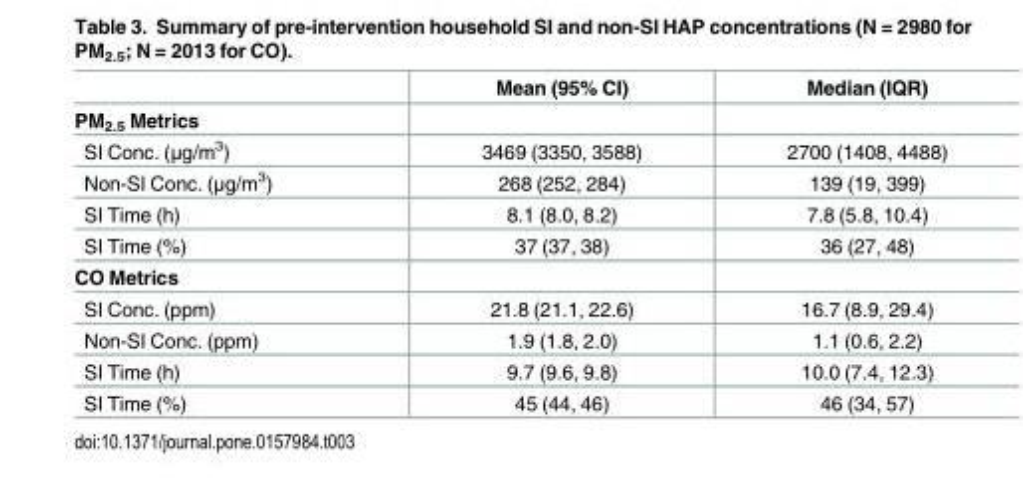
<table><thead><tr><td></td><td>Mean (95% CI)</td><td>Median (IQR)</td></tr></thead><tbody><tr><td colspan="3">PM<sub>2.5</sub> Metrics</td></tr><tr><td>SI Conc. (μg/m<sup>3</sup>)</td><td>3469 (3350, 3588)</td><td>2700 (1408, 4488)</td></tr><tr><td>Non-SI Conc. (μg/m<sup>3</sup>)</td><td>268 (252, 284)</td><td>139 (19, 399)</td></tr><tr><td>SI Time (h)</td><td>8.1 (8.0, 8.2)</td><td>7.8 (5.8, 10.4)</td></tr><tr><td>SI Time (%)</td><td>37 (37, 38)</td><td>36 (27, 48)</td></tr><tr><td colspan="3">CO Metrics</td></tr><tr><td>SI Conc. (ppm)</td><td>21.8 (21.1, 22.6)</td><td>16.7 (8.9, 29.4)</td></tr><tr><td>Non-SI Conc. (ppm)</td><td>1.9 (1.8, 2.0)</td><td>1.1 (0.6, 2.2)</td></tr><tr><td>SI Time (h)</td><td>9.7 (9.6, 9.8)</td><td>10.0 (7.4, 12.3)</td></tr><tr><td>SI Time (%)</td><td>45 (44, 46)</td><td>46 (34, 57)</td></tr></tbody></table>